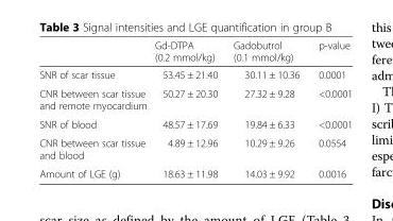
<table><thead><tr><td></td><td>Gd-DTPA (0.2 mmol/kg)</td><td>Gadobutrol (0.1 mmol/kg)</td><td>p-value</td></tr></thead><tbody><tr><td>SNR of scar tissue</td><td>53.45 ± 21.40</td><td>30.11 ± 10.36</td><td>0.0001</td></tr><tr><td>CNR between scar tissue and remote myocardium</td><td>50.27 ± 20.30</td><td>27.32 ± 9.28</td><td>&lt;0.0001</td></tr><tr><td>SNR of blood</td><td>48.57 ± 17.69</td><td>19.84 ± 6.33</td><td>&lt;0.0001</td></tr><tr><td>CNR between scar tissue and blood</td><td>4.89 ± 12.96</td><td>10.29 ± 9.26</td><td>0.0554</td></tr><tr><td>Amount of LGE (g)</td><td>18.63 ± 11.98</td><td>14.03 ± 9.92</td><td>0.0016</td></tr></tbody></table>